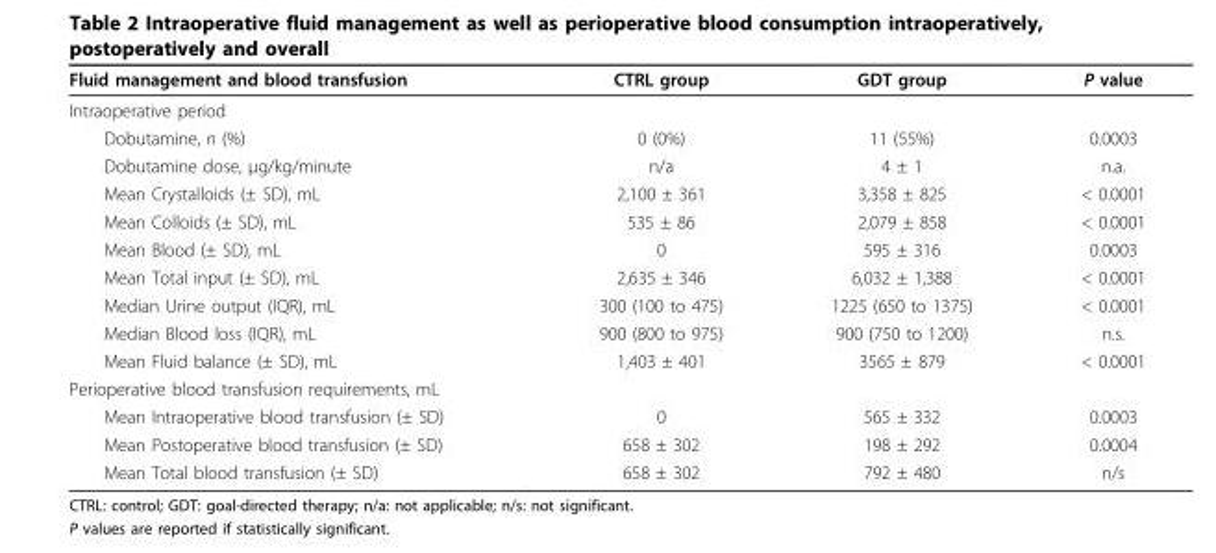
<table><thead><tr><td>Fluid management and blood transfusion</td><td>CTRL group</td><td>GDT group</td><td>P value</td></tr></thead><tbody><tr><td colspan="4">Intraoperative period</td></tr><tr><td>Dobutamine, n (%)</td><td>0 (0%)</td><td>11 (55%)</td><td>0.0003</td></tr><tr><td>Dobutamine dose, μg/kg/minute</td><td>n/a</td><td>4 ± 1</td><td>n.a.</td></tr><tr><td>Mean Crystalloids (± SD), mL</td><td>2,100 ± 361</td><td>3,358 ± 825</td><td>&lt; 0.0001</td></tr><tr><td>Mean Colloids (± SD), mL</td><td>535 ± 86</td><td>2,079 ± 858</td><td>&lt; 0.0001</td></tr><tr><td>Mean Blood (± SD), mL</td><td>0</td><td>595 ± 316</td><td>0.0003</td></tr><tr><td>Mean Total input (± SD), mL</td><td>2,635 ± 346</td><td>6,032 ± 1,388</td><td>&lt; 0.0001</td></tr><tr><td>Median Urine output (IQR), mL</td><td>300 (100 to 475)</td><td>1225 (650 to 1375)</td><td>&lt; 0.0001</td></tr><tr><td>Median Blood loss (IQR), mL</td><td>900 (800 to 975)</td><td>900 (750 to 1200)</td><td>n.s.</td></tr><tr><td>Mean Fluid balance (± SD), mL</td><td>1,403 ± 401</td><td>3565 ± 879</td><td>&lt; 0.0001</td></tr><tr><td colspan="4">Perioperative blood transfusion requirements, mL</td></tr><tr><td>Mean Intraoperative blood transfusion (± SD)</td><td>0</td><td>565 ± 332</td><td>0.0003</td></tr><tr><td>Mean Postoperative blood transfusion (± SD)</td><td>658 ± 302</td><td>198 ± 292</td><td>0.0004</td></tr><tr><td>Mean Total blood transfusion (± SD)</td><td>658 ± 302</td><td>792 ± 480</td><td>n/s</td></tr></tbody></table>